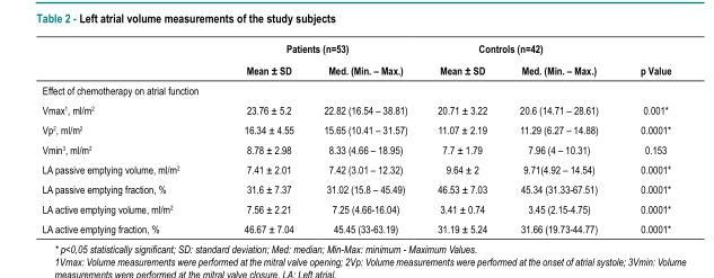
<table><thead><tr><td rowspan="2"></td><td colspan="2">Patients (n=53)</td><td colspan="2">Controls (n=42)</td><td rowspan="2">p Value</td></tr><tr><td>Mean ± SD</td><td>Med. (Min. – Max.)</td><td>Mean ± SD</td><td>Med. (Min. – Max.)</td></tr></thead><tbody><tr><td colspan="6">Effect of chemotherapy on atrial function</td></tr><tr><td>Vmax<sup>1</sup>, ml/m<sup>2</sup></td><td>23.76 ± 5.2</td><td>22.82 (16.54 – 38.81)</td><td>20.71 ± 3.22</td><td>20.6 (14.71 – 28.61)</td><td>0.001*</td></tr><tr><td>Vp<sup>2</sup>, ml/m<sup>2</sup></td><td>16.34 ± 4.55</td><td>15.65 (10.41 – 31.57)</td><td>11.07 ± 2.19</td><td>11.29 (6.27 – 14.88)</td><td>0.0001*</td></tr><tr><td>Vmin<sup>3</sup>, ml/m<sup>2</sup></td><td>8.78 ± 2.98</td><td>8.33 (4.66 – 18.95)</td><td>7.7 ± 1.79</td><td>7.96 (4 – 10.31)</td><td>0.153</td></tr><tr><td>LA passive emptying volume, ml/m<sup>2</sup></td><td>7.41 ± 2.01</td><td>7.42 (3.01 – 12.32)</td><td>9.64 ± 2</td><td>9.71(4.92 – 14.54)</td><td>0.0001*</td></tr><tr><td>LA passive emptying fraction, %</td><td>31.6 ± 7.37</td><td>31.02 (15.8 – 45.49)</td><td>46.53 ± 7.03</td><td>45.34 (31.33-67.51)</td><td>0.0001*</td></tr><tr><td>LA active emptying volume, ml/m<sup>2</sup></td><td>7.56 ± 2.21</td><td>7.25 (4.66-16.04)</td><td>3.41 ± 0.74</td><td>3.45 (2.15-4.75)</td><td>0.0001*</td></tr><tr><td>LA active emptying fraction, %</td><td>46.67 ± 7.04</td><td>45.45 (33-63.19)</td><td>31.19 ± 5.24</td><td>31.66 (19.73-44.77)</td><td>0.0001*</td></tr></tbody></table>